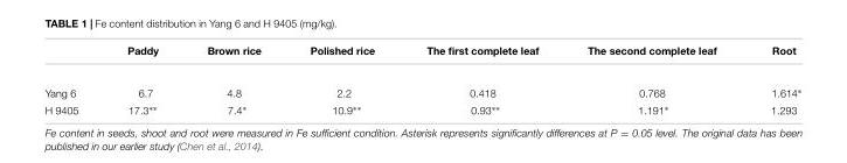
<table><thead><tr><td></td><td>Paddy</td><td>Brown rice</td><td>Polished rice</td><td>The first complete leaf</td><td>The second complete leaf</td><td>Root</td></tr></thead><tbody><tr><td>Yang 6</td><td>6.7</td><td>4.8</td><td>2.2</td><td>0.418</td><td>0.768</td><td>1.614∗</td></tr><tr><td>H 9405</td><td>17.3∗∗</td><td>7.4∗</td><td>10.9∗∗</td><td>0.93∗∗</td><td>1.191∗</td><td>1.293</td></tr></tbody></table>